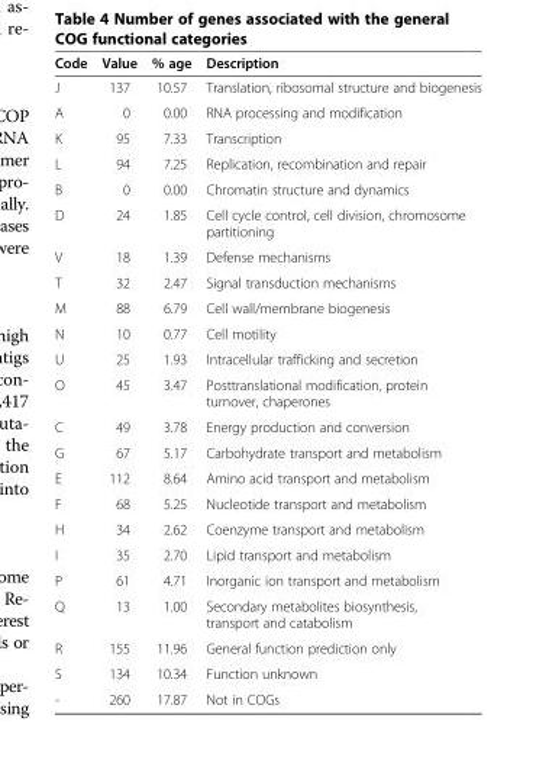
<table><thead><tr><td>Code</td><td>Value</td><td>% age</td><td>Description</td></tr></thead><tbody><tr><td>J</td><td>137</td><td>10.57</td><td>Translation, ribosomal structure and biogenesis</td></tr><tr><td>A</td><td>0</td><td>0.00</td><td>RNA processing and modification</td></tr><tr><td>K</td><td>95</td><td>7.33</td><td>Transcription</td></tr><tr><td>L</td><td>94</td><td>7.25</td><td>Replication, recombination and repair</td></tr><tr><td>B</td><td>0</td><td>0.00</td><td>Chromatin structure and dynamics</td></tr><tr><td>D</td><td>24</td><td>1.85</td><td>Cell cycle control, cell division, chromosome partitioning</td></tr><tr><td>V</td><td>18</td><td>1.39</td><td>Defense mechanisms</td></tr><tr><td>T</td><td>32</td><td>2.47</td><td>Signal transduction mechanisms</td></tr><tr><td>M</td><td>88</td><td>6.79</td><td>Cell wall/membrane biogenesis</td></tr><tr><td>N</td><td>10</td><td>0.77</td><td>Cell motility</td></tr><tr><td>U</td><td>25</td><td>1.93</td><td>Intracellular trafficking and secretion</td></tr><tr><td>O</td><td>45</td><td>3.47</td><td>Posttranslational modification, protein turnover, chaperones</td></tr><tr><td>C</td><td>49</td><td>3.78</td><td>Energy production and conversion</td></tr><tr><td>G</td><td>67</td><td>5.17</td><td>Carbohydrate transport and metabolism</td></tr><tr><td>E</td><td>112</td><td>8.64</td><td>Amino acid transport and metabolism</td></tr><tr><td>F</td><td>68</td><td>5.25</td><td>Nucleotide transport and metabolism</td></tr><tr><td>H</td><td>34</td><td>2.62</td><td>Coenzyme transport and metabolism</td></tr><tr><td>I</td><td>35</td><td>2.70</td><td>Lipid transport and metabolism</td></tr><tr><td>P</td><td>61</td><td>4.71</td><td>Inorganic ion transport and metabolism</td></tr><tr><td>Q</td><td>13</td><td>1.00</td><td>Secondary metabolites biosynthesis, transport and catabolism</td></tr><tr><td>R</td><td>155</td><td>11.96</td><td>General function prediction only</td></tr><tr><td>S</td><td>134</td><td>10.34</td><td>Function unknown</td></tr><tr><td>-</td><td>260</td><td>17.87</td><td>Not in COGs</td></tr></tbody></table>